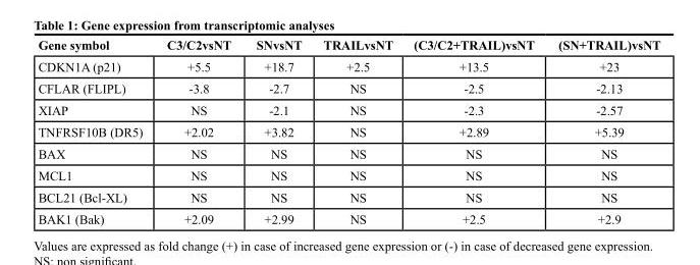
<table><thead><tr><td>Gene symbol</td><td>C3/C2vsNT</td><td>SNvsNT</td><td>TRAILvsNT</td><td>(C3/C2+TRAIL)vsNT</td><td>(SN+TRAIL)vsNT</td></tr></thead><tbody><tr><td>CDKN1A (p21)</td><td>+5.5</td><td>+18.7</td><td>+2.5</td><td>+13.5</td><td>+23</td></tr><tr><td>CFLAR (FLIPL)</td><td>-3.8</td><td>-2.7</td><td>NS</td><td>-2.5</td><td>-2.13</td></tr><tr><td>XIAP</td><td>NS</td><td>-2.1</td><td>NS</td><td>-2.3</td><td>-2.57</td></tr><tr><td>TNFRSF10B (DR5)</td><td>+2.02</td><td>+3.82</td><td>NS</td><td>+2.89</td><td>+5.39</td></tr><tr><td>BAX</td><td>NS</td><td>NS</td><td>NS</td><td>NS</td><td>NS</td></tr><tr><td>MCL1</td><td>NS</td><td>NS</td><td>NS</td><td>NS</td><td>NS</td></tr><tr><td>BCL21 (Bcl-XL)</td><td>NS</td><td>NS</td><td>NS</td><td>NS</td><td>NS</td></tr><tr><td>BAK1 (Bak)</td><td>+2.09</td><td>+2.99</td><td>NS</td><td>+2.5</td><td>+2.9</td></tr></tbody></table>